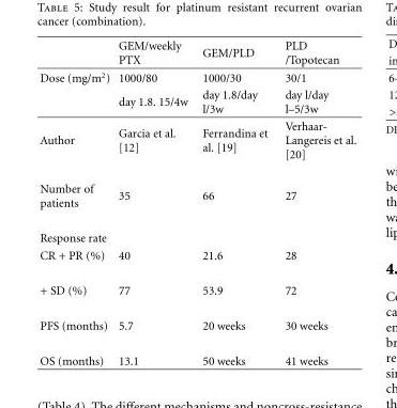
<table><thead><tr><td></td><td>GEM/weekly PTX</td><td>GEM/PLD</td><td>PLD /Topotecan</td></tr></thead><tbody><tr><td rowspan="2">Dose (mg/m<sup>2</sup>)</td><td>1000/80</td><td>1000/30</td><td>30/1</td></tr><tr><td>day 1.8. 15/4w</td><td>day 1.8/day l/3w</td><td>day l/day l–5/3w</td></tr><tr><td>Author</td><td>Garcia et al. [12]</td><td>Ferrandina et al. [19]</td><td>Verhaar- Langereis et al. [20]</td></tr><tr><td>Number of patients</td><td>35</td><td>66</td><td>27</td></tr><tr><td colspan="4">Response rate</td></tr><tr><td>CR + PR (%)</td><td>40</td><td>21.6</td><td>28</td></tr><tr><td>+ SD (%)</td><td>77</td><td>53.9</td><td>72</td></tr><tr><td>PFS (months)</td><td>5.7</td><td>20 weeks</td><td>30 weeks</td></tr><tr><td>OS (months)</td><td>13.1</td><td>50 weeks</td><td>41 weeks</td></tr></tbody></table>